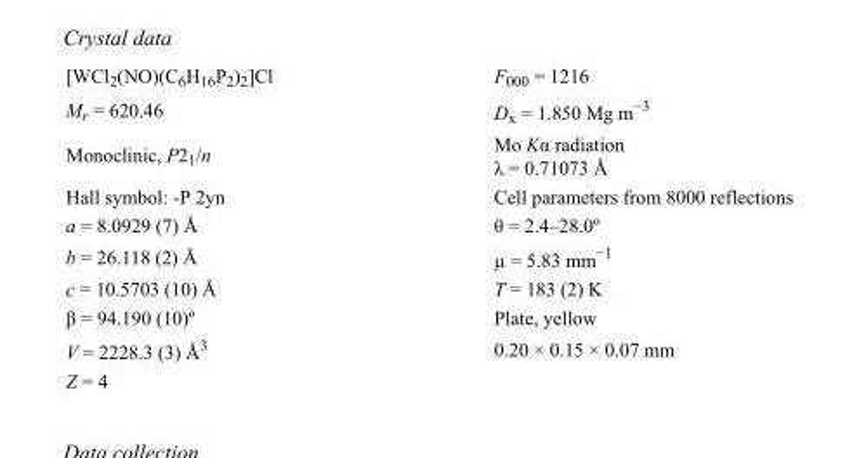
<table><tbody><tr><td>[WCl<sub>2</sub>(NO)(C<sub>6</sub>H<sub>16</sub>P<sub>2</sub>)<sub>2</sub>]Cl</td><td>F<sub>000</sub> = 1216</td></tr><tr><td>M<sub>r</sub> = 620.46</td><td>D<sub>x</sub> = 1.850 Mg m<sup>−3</sup></td></tr><tr><td>Monoclinic, P2<sub>1</sub>/n</td><td>Mo Kα radiation λ = 0.71073 Å</td></tr><tr><td>Hall symbol: -P 2yn</td><td>Cell parameters from 8000 reflections</td></tr><tr><td>a = 8.0929 (7) Å</td><td>θ = 2.4–28.0º</td></tr><tr><td>b = 26.118 (2) Å</td><td>µ = 5.83 mm<sup>−1</sup></td></tr><tr><td>c = 10.5703 (10) Å</td><td>T = 183 (2) K</td></tr><tr><td>β = 94.190 (10)º</td><td>Plate, yellow</td></tr><tr><td>V = 2228.3 (3) Å<sup>3</sup></td><td>0.20 × 0.15 × 0.07 mm</td></tr><tr><td>Z = 4</td><td></td></tr></tbody></table>